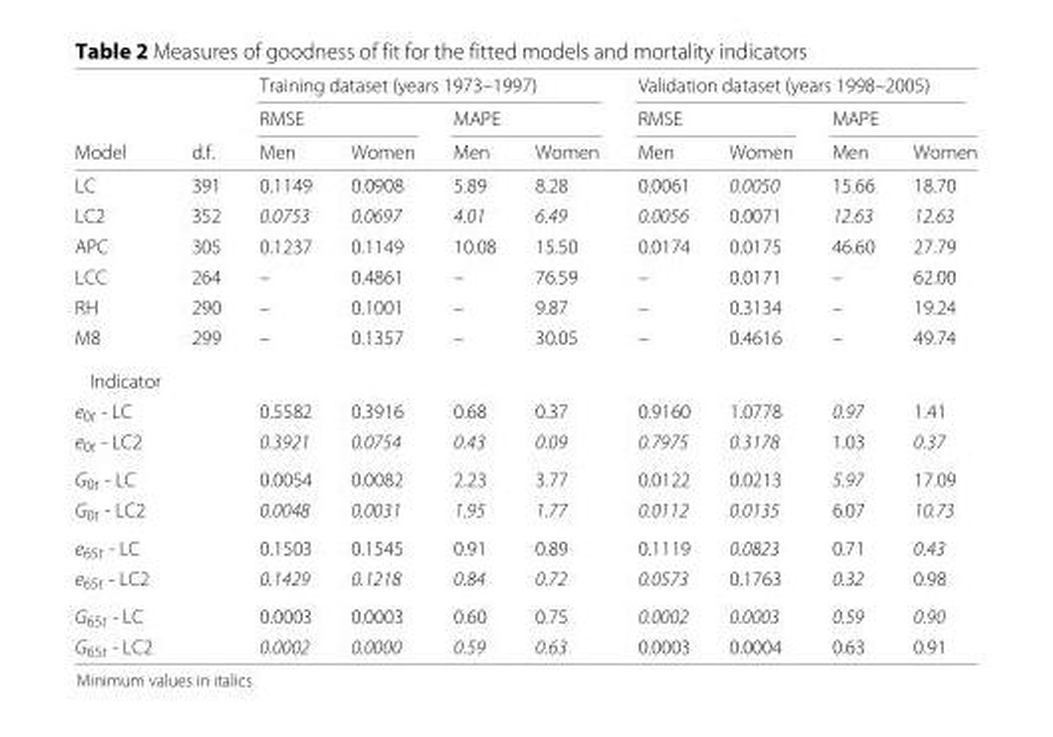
<table><thead><tr><td rowspan="3">Model</td><td rowspan="3">d.f.</td><td colspan="4">Training dataset (years 1973–1997)</td><td colspan="4">Validation dataset (years 1998–2005)</td></tr><tr><td colspan="2">RMSE</td><td colspan="2">MAPE</td><td colspan="2">RMSE</td><td colspan="2">MAPE</td></tr><tr><td>Men</td><td>Women</td><td>Men</td><td>Women</td><td>Men</td><td>Women</td><td>Men</td><td>Women</td></tr></thead><tbody><tr><td>LC</td><td>391</td><td>0.1149</td><td>0.0908</td><td>5.89</td><td>8.28</td><td>0.0061</td><td>0.0050</td><td>15.66</td><td>18.70</td></tr><tr><td>LC2</td><td>352</td><td>0.0753</td><td>0.0697</td><td>4.01</td><td>6.49</td><td>0.0056</td><td>0.0071</td><td>12.63</td><td>12.63</td></tr><tr><td>APC</td><td>305</td><td>0.1237</td><td>0.1149</td><td>10.08</td><td>15.50</td><td>0.0174</td><td>0.0175</td><td>46.60</td><td>27.79</td></tr><tr><td>LCC</td><td>264</td><td>–</td><td>0.4861</td><td>–</td><td>76.59</td><td>–</td><td>0.0171</td><td>–</td><td>62.00</td></tr><tr><td>RH</td><td>290</td><td>–</td><td>0.1001</td><td>–</td><td>9.87</td><td>–</td><td>0.3134</td><td>–</td><td>19.24</td></tr><tr><td>M8</td><td>299</td><td>–</td><td>0.1357</td><td>–</td><td>30.05</td><td>–</td><td>0.4616</td><td>–</td><td>49.74</td></tr><tr><td colspan="10">Indicator</td></tr><tr><td>e<sub>0t</sub> - LC</td><td></td><td>0.5582</td><td>0.3916</td><td>0.68</td><td>0.37</td><td>0.9160</td><td>1.0778</td><td>0.97</td><td>1.41</td></tr><tr><td>e<sub>0t</sub> - LC2</td><td></td><td>0.3921</td><td>0.0754</td><td>0.43</td><td>0.09</td><td>0.7975</td><td>0.3178</td><td>1.03</td><td>0.37</td></tr><tr><td>G<sub>0t</sub> - LC</td><td></td><td>0.0054</td><td>0.0082</td><td>2.23</td><td>3.77</td><td>0.0122</td><td>0.0213</td><td>5.97</td><td>17.09</td></tr><tr><td>G<sub>0t</sub> - LC2</td><td></td><td>0.0048</td><td>0.0031</td><td>1.95</td><td>1.77</td><td>0.0112</td><td>0.0135</td><td>6.07</td><td>10.73</td></tr><tr><td>e<sub>65t</sub> - LC</td><td></td><td>0.1503</td><td>0.1545</td><td>0.91</td><td>0.89</td><td>0.1119</td><td>0.0823</td><td>0.71</td><td>0.43</td></tr><tr><td>e<sub>65t</sub> - LC2</td><td></td><td>0.1429</td><td>0.1218</td><td>0.84</td><td>0.72</td><td>0.0573</td><td>0.1763</td><td>0.32</td><td>0.98</td></tr><tr><td>G<sub>65t</sub> - LC</td><td></td><td>0.0003</td><td>0.0003</td><td>0.60</td><td>0.75</td><td>0.0002</td><td>0.0003</td><td>0.59</td><td>0.90</td></tr><tr><td>G<sub>65t</sub> - LC2</td><td></td><td>0.0002</td><td>0.0000</td><td>0.59</td><td>0.63</td><td>0.0003</td><td>0.0004</td><td>0.63</td><td>0.91</td></tr></tbody></table>